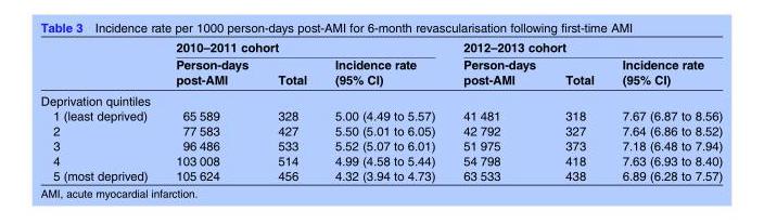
<table><thead><tr><td rowspan="2"></td><td colspan="3">2010–2011 cohort</td><td colspan="3">2012–2013 cohort</td></tr><tr><td>Person-days post-AMI</td><td>Total</td><td>Incidence rate (95% CI)</td><td>Person-days post-AMI</td><td>Total</td><td>Incidence rate (95% CI)</td></tr></thead><tbody><tr><td colspan="7">Deprivation quintiles</td></tr><tr><td>1 (least deprived)</td><td>65 589</td><td>328</td><td>5.00 (4.49 to 5.57)</td><td>41 481</td><td>318</td><td>7.67 (6.87 to 8.56)</td></tr><tr><td>2</td><td>77 583</td><td>427</td><td>5.50 (5.01 to 6.05)</td><td>42 792</td><td>327</td><td>7.64 (6.86 to 8.52)</td></tr><tr><td>3</td><td>96 486</td><td>533</td><td>5.52 (5.07 to 6.01)</td><td>51 975</td><td>373</td><td>7.18 (6.48 to 7.94)</td></tr><tr><td>4</td><td>103 008</td><td>514</td><td>4.99 (4.58 to 5.44)</td><td>54 798</td><td>418</td><td>7.63 (6.93 to 8.40)</td></tr><tr><td>5 (most deprived)</td><td>105 624</td><td>456</td><td>4.32 (3.94 to 4.73)</td><td>63 533</td><td>438</td><td>6.89 (6.28 to 7.57)</td></tr></tbody></table>